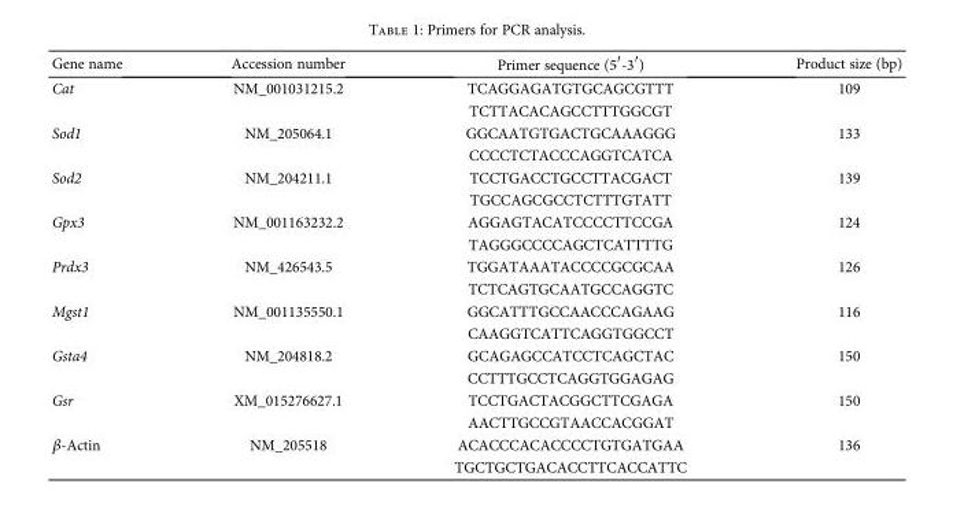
<table><thead><tr><td>Gene name</td><td>Accession number</td><td>Primer sequence (5′-3′)</td><td>Product size (bp)</td></tr></thead><tbody><tr><td rowspan="2">Cat</td><td>NM_001031215.2</td><td>TCAGGAGATGTGCAGCGTTT</td><td>109</td></tr><tr><td></td><td>TCTTACACAGCCTTTGGCGT</td><td></td></tr><tr><td rowspan="2">Sod1</td><td>NM_205064.1</td><td>GGCAATGTGACTGCAAAGGG</td><td>133</td></tr><tr><td></td><td>CCCCTCTACCCAGGTCATCA</td><td></td></tr><tr><td rowspan="2">Sod2</td><td>NM_204211.1</td><td>TCCTGACCTGCCTTACGACT</td><td>139</td></tr><tr><td></td><td>TGCCAGCGCCTCTTTGTATT</td><td></td></tr><tr><td rowspan="2">Gpx3</td><td>NM_001163232.2</td><td>AGGAGTACATCCCCTTCCGA</td><td>124</td></tr><tr><td></td><td>TAGGGCCCCAGCTCATTTTG</td><td></td></tr><tr><td rowspan="2">Prdx3</td><td>NM_426543.5</td><td>TGGATAAATACCCCGCGCAA</td><td>126</td></tr><tr><td></td><td>TCTCAGTGCAATGCCAGGTC</td><td></td></tr><tr><td rowspan="2">Mgst1</td><td>NM_001135550.1</td><td>GGCATTTGCCAACCCAGAAG</td><td>116</td></tr><tr><td></td><td>CAAGGTCATTCAGGTGGCCT</td><td></td></tr><tr><td rowspan="2">Gsta4</td><td>NM_204818.2</td><td>GCAGAGCCATCCTCAGCTAC</td><td>150</td></tr><tr><td></td><td>CCTTTGCCTCAGGTGGAGAG</td><td></td></tr><tr><td rowspan="2">Gsr</td><td>XM_015276627.1</td><td>TCCTGACTACGGCTTCGAGA</td><td>150</td></tr><tr><td></td><td>AACTTGCCGTAACCACGGAT</td><td></td></tr><tr><td rowspan="2">β-Actin</td><td>NM_205518</td><td>ACACCCACACCCCTGTGATGAA</td><td>136</td></tr><tr><td></td><td>TGCTGCTGACACCTTCACCATTC</td><td></td></tr></tbody></table>